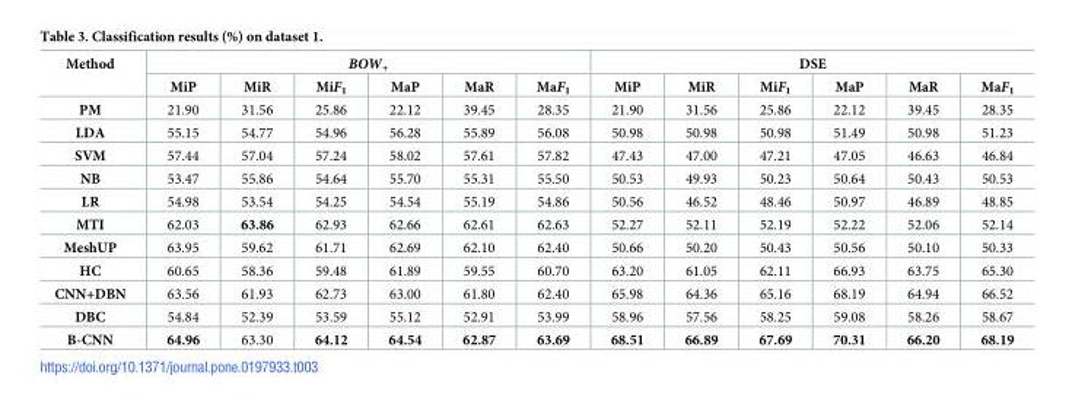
<table><thead><tr><td rowspan="2">Method</td><td colspan="6">BOW<sub>+</sub></td><td colspan="6">DSE</td></tr><tr><td>MiP</td><td>MiR</td><td>MiF<sub>1</sub></td><td>MaP</td><td>MaR</td><td>MaF<sub>1</sub></td><td>MiP</td><td>MiR</td><td>MiF<sub>1</sub></td><td>MaP</td><td>MaR</td><td>MaF<sub>1</sub></td></tr></thead><tbody><tr><td>PM</td><td>21.90</td><td>31.56</td><td>25.86</td><td>22.12</td><td>39.45</td><td>28.35</td><td>21.90</td><td>31.56</td><td>25.86</td><td>22.12</td><td>39.45</td><td>28.35</td></tr><tr><td>LDA</td><td>55.15</td><td>54.77</td><td>54.96</td><td>56.28</td><td>55.89</td><td>56.08</td><td>50.98</td><td>50.98</td><td>50.98</td><td>51.49</td><td>50.98</td><td>51.23</td></tr><tr><td>SVM</td><td>57.44</td><td>57.04</td><td>57.24</td><td>58.02</td><td>57.61</td><td>57.82</td><td>47.43</td><td>47.00</td><td>47.21</td><td>47.05</td><td>46.63</td><td>46.84</td></tr><tr><td>NB</td><td>53.47</td><td>55.86</td><td>54.64</td><td>55.70</td><td>55.31</td><td>55.50</td><td>50.53</td><td>49.93</td><td>50.23</td><td>50.64</td><td>50.43</td><td>50.53</td></tr><tr><td>LR</td><td>54.98</td><td>53.54</td><td>54.25</td><td>54.54</td><td>55.19</td><td>54.86</td><td>50.56</td><td>46.52</td><td>48.46</td><td>50.97</td><td>46.89</td><td>48.85</td></tr><tr><td>MTI</td><td>62.03</td><td>63.86</td><td>62.93</td><td>62.66</td><td>62.61</td><td>62.63</td><td>52.27</td><td>52.11</td><td>52.19</td><td>52.22</td><td>52.06</td><td>52.14</td></tr><tr><td>MeshUP</td><td>63.95</td><td>59.62</td><td>61.71</td><td>62.69</td><td>62.10</td><td>62.40</td><td>50.66</td><td>50.20</td><td>50.43</td><td>50.56</td><td>50.10</td><td>50.33</td></tr><tr><td>HC</td><td>60.65</td><td>58.36</td><td>59.48</td><td>61.89</td><td>59.55</td><td>60.70</td><td>63.20</td><td>61.05</td><td>62.11</td><td>66.93</td><td>63.75</td><td>65.30</td></tr><tr><td>CNN+DBN</td><td>63.56</td><td>61.93</td><td>62.73</td><td>63.00</td><td>61.80</td><td>62.40</td><td>65.98</td><td>64.36</td><td>65.16</td><td>68.19</td><td>64.94</td><td>66.52</td></tr><tr><td>DBC</td><td>54.84</td><td>52.39</td><td>53.59</td><td>55.12</td><td>52.91</td><td>53.99</td><td>58.96</td><td>57.56</td><td>58.25</td><td>59.08</td><td>58.26</td><td>58.67</td></tr><tr><td>B-CNN</td><td>64.96</td><td>63.30</td><td>64.12</td><td>64.54</td><td>62.87</td><td>63.69</td><td>68.51</td><td>66.89</td><td>67.69</td><td>70.31</td><td>66.20</td><td>68.19</td></tr></tbody></table>